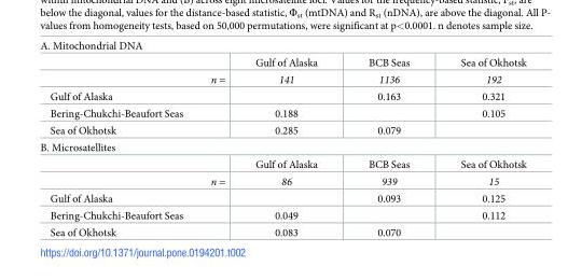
<table><tbody><tr><td colspan="4">A. Mitochondrial DNA</td></tr><tr><td></td><td>Gulf of Alaska</td><td>BCB Seas</td><td>Sea of Okhotsk</td></tr><tr><td>n =</td><td>141</td><td>1136</td><td>192</td></tr><tr><td>Gulf of Alaska</td><td></td><td>0.163</td><td>0.321</td></tr><tr><td>Bering-Chukchi-Beaufort Seas</td><td>0.188</td><td></td><td>0.105</td></tr><tr><td>Sea of Okhotsk</td><td>0.285</td><td>0.079</td><td></td></tr><tr><td colspan="4">B. Microsatellites</td></tr><tr><td></td><td>Gulf of Alaska</td><td>BCB Seas</td><td>Sea of Okhotsk</td></tr><tr><td>n =</td><td>86</td><td>939</td><td>15</td></tr><tr><td>Gulf of Alaska</td><td></td><td>0.093</td><td>0.125</td></tr><tr><td>Bering-Chukchi-Beaufort Seas</td><td>0.049</td><td></td><td>0.112</td></tr><tr><td>Sea of Okhotsk</td><td>0.083</td><td>0.070</td><td></td></tr></tbody></table>